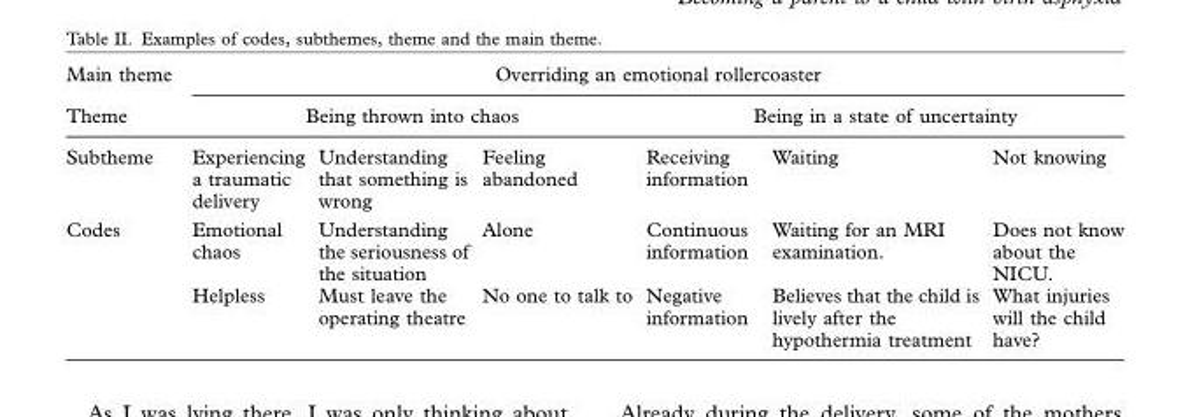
<table><thead><tr><td rowspan="3">Main theme Theme Subtheme</td><td colspan="6">Overriding an emotional rollercoaster</td></tr><tr><td colspan="3">Being thrown into chaos</td><td colspan="3">Being in a state of uncertainty</td></tr><tr><td>Experiencing a traumatic delivery</td><td>Understanding that something is wrong</td><td>Feeling abandoned</td><td>Receiving information</td><td>Waiting</td><td>Not knowing</td></tr></thead><tbody><tr><td rowspan="2">Codes</td><td>Emotional chaos</td><td>Understanding the seriousness of the situation</td><td>Alone</td><td>Continuous information</td><td>Waiting for an MRI examination.</td><td>Does not know about the NICU.</td></tr><tr><td>Helpless</td><td>Must leave the operating theatre</td><td>No one to talk to</td><td>Negative information</td><td>Believes that the child is lively after the hypothermia treatment</td><td>What injuries will the child have?</td></tr></tbody></table>